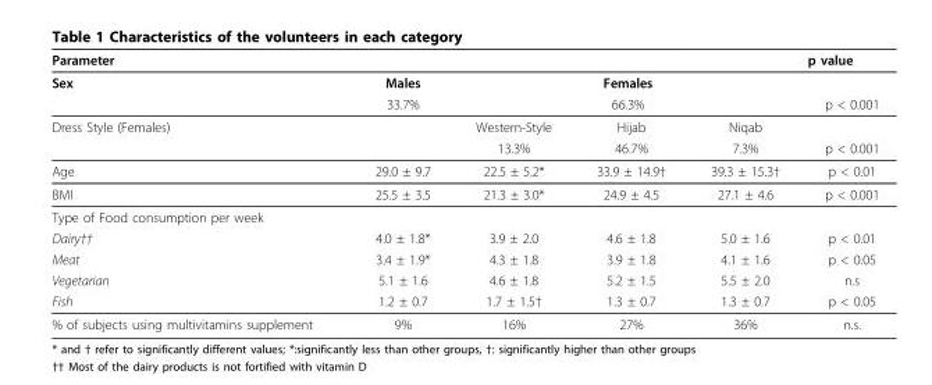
<table><thead><tr><td>Parameter</td><td></td><td></td><td></td><td></td><td>p value</td></tr></thead><tbody><tr><td rowspan="2">Sex</td><td>Males</td><td colspan="3">Females</td><td></td></tr><tr><td>33.7%</td><td colspan="3">66.3%</td><td>p &lt; 0.001</td></tr><tr><td rowspan="2">Dress Style (Females)</td><td></td><td>Western-Style</td><td>Hijab</td><td>Niqab</td><td></td></tr><tr><td></td><td>13.3%</td><td>46.7%</td><td>7.3%</td><td>p &lt; 0.001</td></tr><tr><td>Age</td><td>29.0 ± 9.7</td><td>22.5 ± 5.2*</td><td>33.9 ± 14.9†</td><td>39.3 ± 15.3†</td><td>p &lt; 0.01</td></tr><tr><td>BMI</td><td>25.5 ± 3.5</td><td>21.3 ± 3.0*</td><td>24.9 ± 4.5</td><td>27.1 ± 4.6</td><td>p &lt; 0.001</td></tr><tr><td colspan="6">Type of Food consumption per week</td></tr><tr><td>Dairy††</td><td>4.0 ± 1.8*</td><td>3.9 ± 2.0</td><td>4.6 ± 1.8</td><td>5.0 ± 1.6</td><td>p &lt; 0.01</td></tr><tr><td>Meat</td><td>3.4 ± 1.9*</td><td>4.3 ± 1.8</td><td>3.9 ± 1.8</td><td>4.1 ± 1.6</td><td>p &lt; 0.05</td></tr><tr><td>Vegetarian</td><td>5.1 ± 1.6</td><td>4.6 ± 1.8</td><td>5.2 ± 1.5</td><td>5.5 ± 2.0</td><td>n.s</td></tr><tr><td>Fish</td><td>1.2 ± 0.7</td><td>1.7 ± 1.5†</td><td>1.3 ± 0.7</td><td>1.3 ± 0.7</td><td>p &lt; 0.05</td></tr><tr><td>% of subjects using multivitamins supplement</td><td>9%</td><td>16%</td><td>27%</td><td>36%</td><td>n.s.</td></tr></tbody></table>